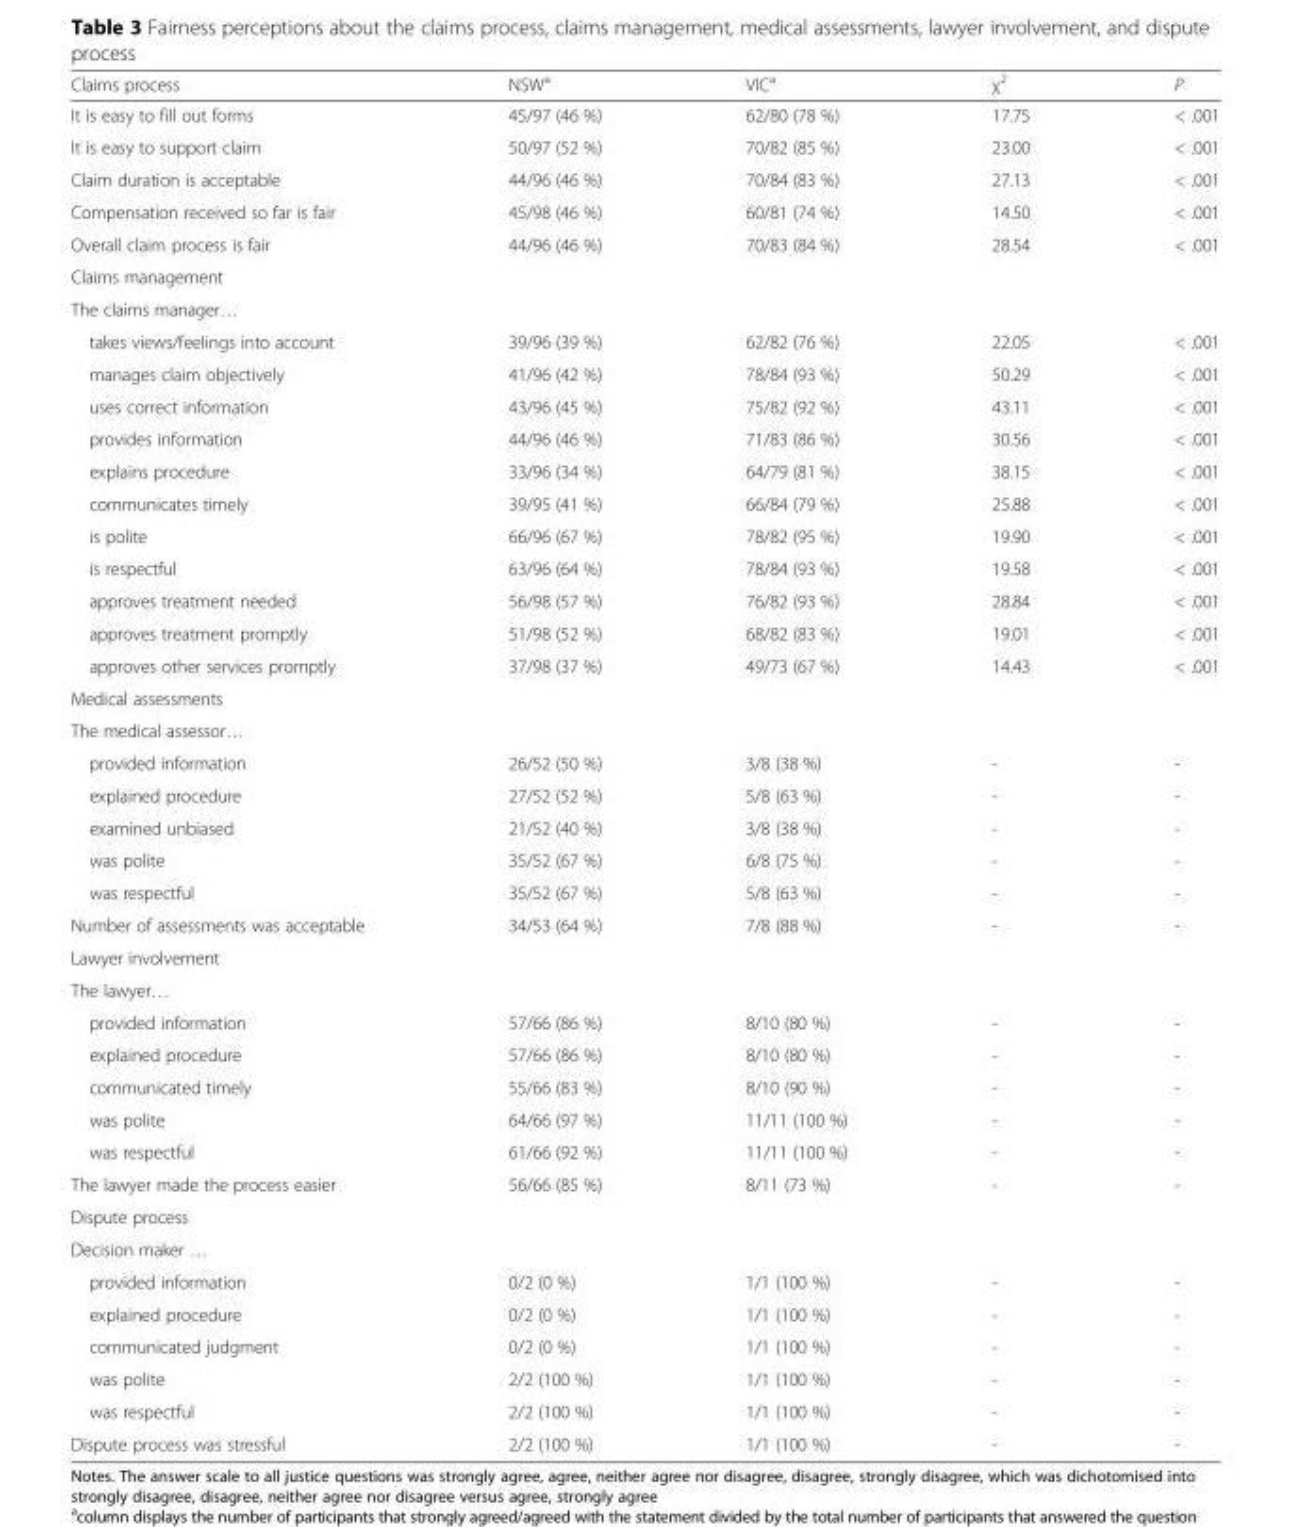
<table><thead><tr><td>Claims process</td><td>NSW<sup>a</sup></td><td>VIC<sup>a</sup></td><td>χ<sup>2</sup></td><td>P</td></tr></thead><tbody><tr><td>It is easy to fill out forms</td><td>45/97 (46 %)</td><td>62/80 (78 %)</td><td>17.75</td><td>&lt; .001</td></tr><tr><td>It is easy to support claim</td><td>50/97 (52 %)</td><td>70/82 (85 %)</td><td>23.00</td><td>&lt; .001</td></tr><tr><td>Claim duration is acceptable</td><td>44/96 (46 %)</td><td>70/84 (83 %)</td><td>27.13</td><td>&lt; .001</td></tr><tr><td>Compensation received so far is fair</td><td>45/98 (46 %)</td><td>60/81 (74 %)</td><td>14.50</td><td>&lt; .001</td></tr><tr><td>Overall claim process is fair</td><td>44/96 (46 %)</td><td>70/83 (84 %)</td><td>28.54</td><td>&lt; .001</td></tr><tr><td colspan="5">Claims management</td></tr><tr><td colspan="5">The claims manager…</td></tr><tr><td>takes views/feelings into account</td><td>39/96 (39 %)</td><td>62/82 (76 %)</td><td>22.05</td><td>&lt; .001</td></tr><tr><td>manages claim objectively</td><td>41/96 (42 %)</td><td>78/84 (93 %)</td><td>50.29</td><td>&lt; .001</td></tr><tr><td>uses correct information</td><td>43/96 (45 %)</td><td>75/82 (92 %)</td><td>43.11</td><td>&lt; .001</td></tr><tr><td>provides information</td><td>44/96 (46 %)</td><td>71/83 (86 %)</td><td>30.56</td><td>&lt; .001</td></tr><tr><td>explains procedure</td><td>33/96 (34 %)</td><td>64/79 (81 %)</td><td>38.15</td><td>&lt; .001</td></tr><tr><td>communicates timely</td><td>39/95 (41 %)</td><td>66/84 (79 %)</td><td>25.88</td><td>&lt; .001</td></tr><tr><td>is polite</td><td>66/96 (67 %)</td><td>78/82 (95 %)</td><td>19.90</td><td>&lt; .001</td></tr><tr><td>is respectful</td><td>63/96 (64 %)</td><td>78/84 (93 %)</td><td>19.58</td><td>&lt; .001</td></tr><tr><td>approves treatment needed</td><td>56/98 (57 %)</td><td>76/82 (93 %)</td><td>28.84</td><td>&lt; .001</td></tr><tr><td>approves treatment promptly</td><td>51/98 (52 %)</td><td>68/82 (83 %)</td><td>19.01</td><td>&lt; .001</td></tr><tr><td>approves other services promptly</td><td>37/98 (37 %)</td><td>49/73 (67 %)</td><td>14.43</td><td>&lt; .001</td></tr><tr><td colspan="5">Medical assessments</td></tr><tr><td colspan="5">The medical assessor…</td></tr><tr><td>provided information</td><td>26/52 (50 %)</td><td>3/8 (38 %)</td><td>-</td><td>-</td></tr><tr><td>explained procedure</td><td>27/52 (52 %)</td><td>5/8 (63 %)</td><td>-</td><td>-</td></tr><tr><td>examined unbiased</td><td>21/52 (40 %)</td><td>3/8 (38 %)</td><td>-</td><td>-</td></tr><tr><td>was polite</td><td>35/52 (67 %)</td><td>6/8 (75 %)</td><td>-</td><td>-</td></tr><tr><td>was respectful</td><td>35/52 (67 %)</td><td>5/8 (63 %)</td><td>-</td><td>-</td></tr><tr><td>Number of assessments was acceptable</td><td>34/53 (64 %)</td><td>7/8 (88 %)</td><td>-</td><td>-</td></tr><tr><td colspan="5">Lawyer involvement</td></tr><tr><td colspan="5">The lawyer…</td></tr><tr><td>provided information</td><td>57/66 (86 %)</td><td>8/10 (80 %)</td><td>-</td><td>-</td></tr><tr><td>explained procedure</td><td>57/66 (86 %)</td><td>8/10 (80 %)</td><td>-</td><td>-</td></tr><tr><td>communicated timely</td><td>55/66 (83 %)</td><td>8/10 (90 %)</td><td>-</td><td>-</td></tr><tr><td>was polite</td><td>64/66 (97 %)</td><td>11/11 (100 %)</td><td>-</td><td>-</td></tr><tr><td>was respectful</td><td>61/66 (92 %)</td><td>11/11 (100 %)</td><td>-</td><td>-</td></tr><tr><td>The lawyer made the process easier</td><td>56/66 (85 %)</td><td>8/11 (73 %)</td><td>-</td><td>-</td></tr><tr><td colspan="5">Dispute process</td></tr><tr><td colspan="5">Decision maker …</td></tr><tr><td>provided information</td><td>0/2 (0 %)</td><td>1/1 (100 %)</td><td>-</td><td>-</td></tr><tr><td>explained procedure</td><td>0/2 (0 %)</td><td>1/1 (100 %)</td><td>-</td><td>-</td></tr><tr><td>communicated judgment</td><td>0/2 (0 %)</td><td>1/1 (100 %)</td><td>-</td><td>-</td></tr><tr><td>was polite</td><td>2/2 (100 %)</td><td>1/1 (100 %)</td><td>-</td><td>-</td></tr><tr><td>was respectful</td><td>2/2 (100 %)</td><td>1/1 (100 %)</td><td>-</td><td>-</td></tr><tr><td>Dispute process was stressful</td><td>2/2 (100 %)</td><td>1/1 (100 %)</td><td>-</td><td>-</td></tr></tbody></table>